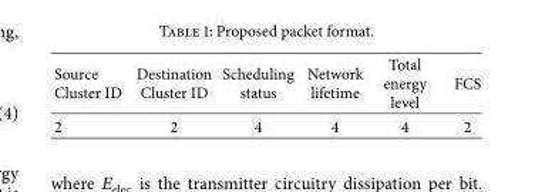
<table><thead><tr><td>Source Cluster ID</td><td>Destination Cluster ID</td><td>Scheduling status</td><td>Network lifetime</td><td>Total energy level</td><td>FCS</td></tr></thead><tbody><tr><td>2</td><td>2</td><td>4</td><td>4</td><td>4</td><td>2</td></tr></tbody></table>